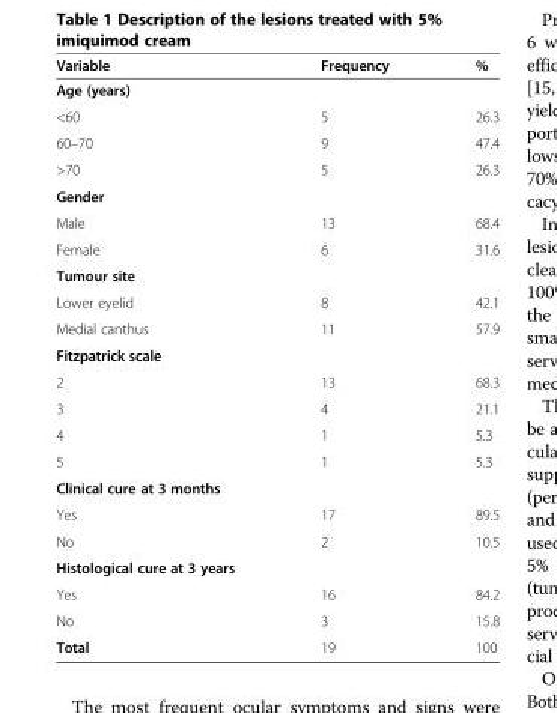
<table><thead><tr><td>Variable</td><td>Frequency</td><td>%</td></tr></thead><tbody><tr><td colspan="3">Age (years)</td></tr><tr><td>&lt;60</td><td>5</td><td>26.3</td></tr><tr><td>60–70</td><td>9</td><td>47.4</td></tr><tr><td>&gt;70</td><td>5</td><td>26.3</td></tr><tr><td colspan="3">Gender</td></tr><tr><td>Male</td><td>13</td><td>68.4</td></tr><tr><td>Female</td><td>6</td><td>31.6</td></tr><tr><td colspan="3">Tumour site</td></tr><tr><td>Lower eyelid</td><td>8</td><td>42.1</td></tr><tr><td>Medial canthus</td><td>11</td><td>57.9</td></tr><tr><td colspan="3">Fitzpatrick scale</td></tr><tr><td>2</td><td>13</td><td>68.3</td></tr><tr><td>3</td><td>4</td><td>21.1</td></tr><tr><td>4</td><td>1</td><td>5.3</td></tr><tr><td>5</td><td>1</td><td>5.3</td></tr><tr><td colspan="3">Clinical cure at 3 months</td></tr><tr><td>Yes</td><td>17</td><td>89.5</td></tr><tr><td>No</td><td>2</td><td>10.5</td></tr><tr><td colspan="3">Histological cure at 3 years</td></tr><tr><td>Yes</td><td>16</td><td>84.2</td></tr><tr><td>No</td><td>3</td><td>15.8</td></tr><tr><td>Total</td><td>19</td><td>100</td></tr></tbody></table>